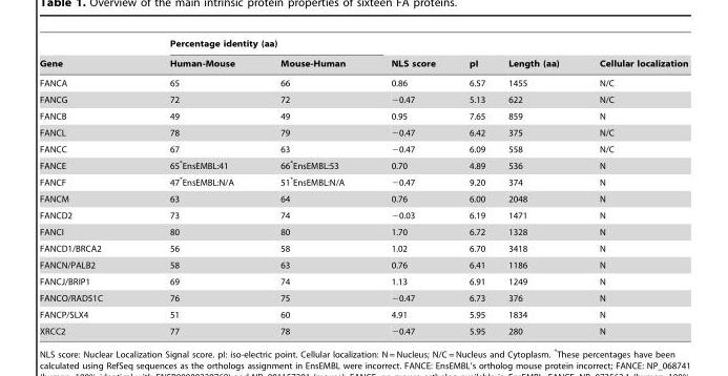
<table><thead><tr><td rowspan="2">Gene</td><td colspan="2">Percentage identity (aa)</td><td rowspan="2">NLS score</td><td rowspan="2">pI</td><td rowspan="2">Length (aa)</td><td rowspan="2">Cellular localization</td></tr><tr><td>Human-Mouse</td><td>Mouse-Human</td></tr></thead><tbody><tr><td>FANCA</td><td>65</td><td>66</td><td>0.86</td><td>6.57</td><td>1455</td><td>N/C</td></tr><tr><td>FANCG</td><td>72</td><td>72</td><td>−0.47</td><td>5.13</td><td>622</td><td>N/C</td></tr><tr><td>FANCB</td><td>49</td><td>49</td><td>0.95</td><td>7.65</td><td>859</td><td>N</td></tr><tr><td>FANCL</td><td>78</td><td>79</td><td>−0.47</td><td>6.42</td><td>375</td><td>N/C</td></tr><tr><td>FANCC</td><td>67</td><td>63</td><td>−0.47</td><td>6.09</td><td>558</td><td>N/C</td></tr><tr><td>FANCE</td><td>65*EnsEMBL:41</td><td>66*EnsEMBL:53</td><td>0.70</td><td>4.89</td><td>536</td><td>N</td></tr><tr><td>FANCF</td><td>47*EnsEMBL:N/A</td><td>51*EnsEMBL:N/A</td><td>−0.47</td><td>9.20</td><td>374</td><td>N</td></tr><tr><td>FANCM</td><td>63</td><td>64</td><td>0.76</td><td>6.00</td><td>2048</td><td>N</td></tr><tr><td>FANCD2</td><td>73</td><td>74</td><td>−0.03</td><td>6.19</td><td>1471</td><td>N</td></tr><tr><td>FANCI</td><td>80</td><td>80</td><td>1.70</td><td>6.72</td><td>1328</td><td>N</td></tr><tr><td>FANCD1/BRCA2</td><td>56</td><td>58</td><td>1.02</td><td>6.70</td><td>3418</td><td>N</td></tr><tr><td>FANCN/PALB2</td><td>58</td><td>63</td><td>0.76</td><td>6.41</td><td>1186</td><td>N</td></tr><tr><td>FANCJ/BRIP1</td><td>69</td><td>74</td><td>1.13</td><td>6.91</td><td>1249</td><td>N</td></tr><tr><td>FANCO/RAD51C</td><td>76</td><td>75</td><td>−0.47</td><td>6.73</td><td>376</td><td>N</td></tr><tr><td>FANCP/SLX4</td><td>51</td><td>60</td><td>4.91</td><td>5.95</td><td>1834</td><td>N</td></tr><tr><td>XRCC2</td><td>77</td><td>78</td><td>−0.47</td><td>5.95</td><td>280</td><td>N</td></tr></tbody></table>